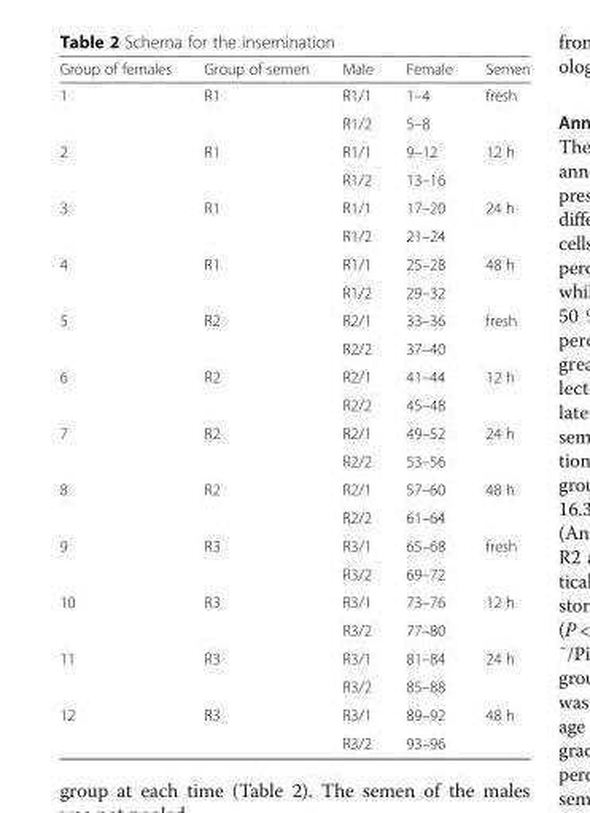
<table><thead><tr><td>Group of females</td><td>Group of semen</td><td>Male</td><td>Female</td><td>Semen</td></tr></thead><tbody><tr><td rowspan="2">1</td><td rowspan="2">R1</td><td>R1/1</td><td>1–4</td><td rowspan="2">fresh</td></tr><tr><td>R1/2</td><td>5–8</td></tr><tr><td rowspan="2">2</td><td rowspan="2">R1</td><td>R1/1</td><td>9–12</td><td rowspan="2">12 h</td></tr><tr><td>R1/2</td><td>13–16</td></tr><tr><td rowspan="2">3</td><td rowspan="2">R1</td><td>R1/1</td><td>17–20</td><td rowspan="2">24 h</td></tr><tr><td>R1/2</td><td>21–24</td></tr><tr><td rowspan="2">4</td><td rowspan="2">R1</td><td>R1/1</td><td>25–28</td><td rowspan="2">48 h</td></tr><tr><td>R1/2</td><td>29–32</td></tr><tr><td rowspan="2">5</td><td rowspan="2">R2</td><td>R2/1</td><td>33–36</td><td rowspan="2">fresh</td></tr><tr><td>R2/2</td><td>37–40</td></tr><tr><td rowspan="2">6</td><td rowspan="2">R2</td><td>R2/1</td><td>41–44</td><td rowspan="2">12 h</td></tr><tr><td>R2/2</td><td>45–48</td></tr><tr><td rowspan="2">7</td><td rowspan="2">R2</td><td>R2/1</td><td>49–52</td><td rowspan="2">24 h</td></tr><tr><td>R2/2</td><td>53–56</td></tr><tr><td rowspan="2">8</td><td rowspan="2">R2</td><td>R2/1</td><td>57–60</td><td rowspan="2">48 h</td></tr><tr><td>R2/2</td><td>61–64</td></tr><tr><td rowspan="2">9</td><td rowspan="2">R3</td><td>R3/1</td><td>65–68</td><td rowspan="2">fresh</td></tr><tr><td>R3/2</td><td>69–72</td></tr><tr><td rowspan="2">10</td><td rowspan="2">R3</td><td>R3/1</td><td>73–76</td><td rowspan="2">12 h</td></tr><tr><td>R3/2</td><td>77–80</td></tr><tr><td rowspan="2">11</td><td rowspan="2">R3</td><td>R3/1</td><td>81–84</td><td rowspan="2">24 h</td></tr><tr><td>R3/2</td><td>85–88</td></tr><tr><td rowspan="2">12</td><td rowspan="2">R3</td><td>R3/1</td><td>89–92</td><td rowspan="2">48 h</td></tr><tr><td>R3/2</td><td>93–96</td></tr></tbody></table>